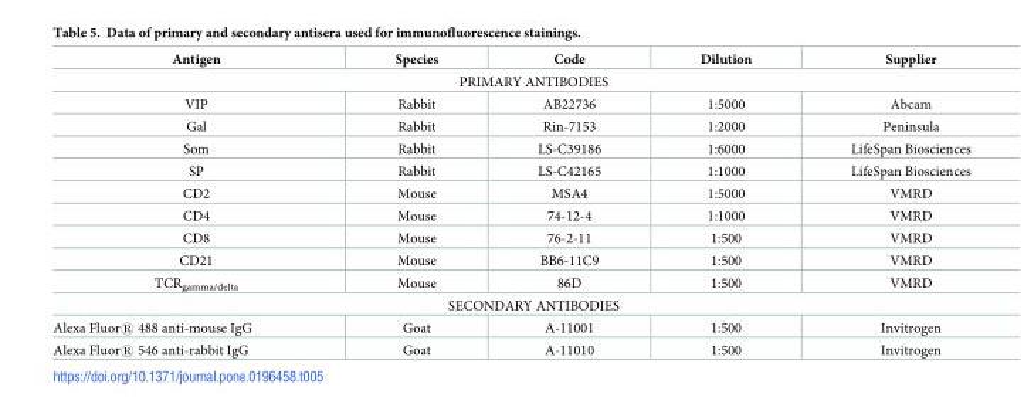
<table><thead><tr><td>Antigen</td><td>Species</td><td>Code</td><td>Dilution</td><td>Supplier</td></tr></thead><tbody><tr><td colspan="5">PRIMARY ANTIBODIES</td></tr><tr><td>VIP</td><td>Rabbit</td><td>AB22736</td><td>1:5000</td><td>Abcam</td></tr><tr><td>Gal</td><td>Rabbit</td><td>Rin-7153</td><td>1:2000</td><td>Peninsula</td></tr><tr><td>Som</td><td>Rabbit</td><td>LS-C39186</td><td>1:6000</td><td>LifeSpan Biosciences</td></tr><tr><td>SP</td><td>Rabbit</td><td>LS-C42165</td><td>1:1000</td><td>LifeSpan Biosciences</td></tr><tr><td>CD2</td><td>Mouse</td><td>MSA4</td><td>1:5000</td><td>VMRD</td></tr><tr><td>CD4</td><td>Mouse</td><td>74-12-4</td><td>1:1000</td><td>VMRD</td></tr><tr><td>CD8</td><td>Mouse</td><td>76-2-11</td><td>1:500</td><td>VMRD</td></tr><tr><td>CD21</td><td>Mouse</td><td>BB6-11C9</td><td>1:500</td><td>VMRD</td></tr><tr><td>TCR<sub>gamma/delta</sub></td><td>Mouse</td><td>86D</td><td>1:500</td><td>VMRD</td></tr><tr><td colspan="5">SECONDARY ANTIBODIES</td></tr><tr><td>Alexa Fluor® 488 anti-mouse IgG</td><td>Goat</td><td>A-11001</td><td>1:500</td><td>Invitrogen</td></tr><tr><td>Alexa Fluor® 546 anti-rabbit IgG</td><td>Goat</td><td>A-11010</td><td>1:500</td><td>Invitrogen</td></tr></tbody></table>